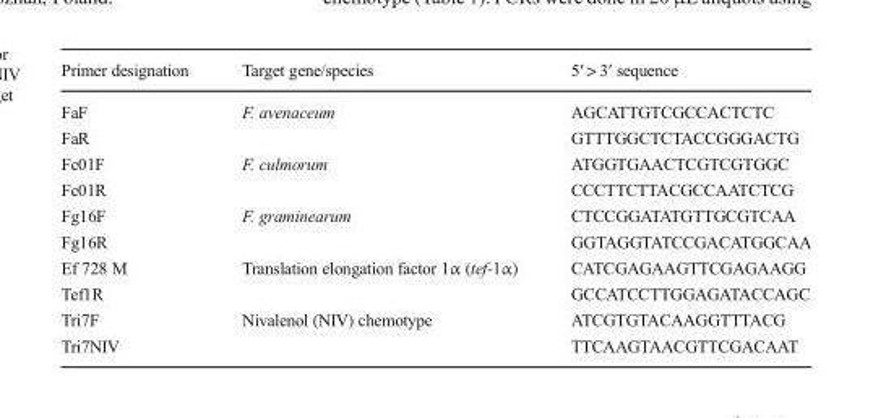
<table><thead><tr><td>Primer designation</td><td>Target gene/species</td><td>5′ &gt; 3′ sequence</td></tr></thead><tbody><tr><td>FaF</td><td rowspan="2">F. avenaceum</td><td>AGCATTGTCGCCACTCTC</td></tr><tr><td>FaR</td><td>GTTTGGCTCTACCGGGACTG</td></tr><tr><td>Fc01F</td><td rowspan="2">F. culmorum</td><td>ATGGTGAACTCGTCGTGGC</td></tr><tr><td>Fc01R</td><td>CCCTTCTTACGCCAATCTCG</td></tr><tr><td>Fg16F</td><td>F. graminearum</td><td>CTCCGGATATGTTGCGTCAA</td></tr><tr><td>Fg16R</td><td></td><td>GGTAGGTATCCGACATGGCAA</td></tr><tr><td>Ef 728 M</td><td rowspan="2">Translation elongation factor 1α (tef-1α)</td><td>CATCGAGAAGTTCGAGAAGG</td></tr><tr><td>Tef1R</td><td>GCCATCCTTGGAGATACCAGC</td></tr><tr><td>Tri7F</td><td rowspan="2">Nivalenol (NIV) chemotype</td><td>ATCGTGTACAAGGTTTACG</td></tr><tr><td>Tri7NIV</td><td>TTCAAGTAACGTTCGACAAT</td></tr></tbody></table>